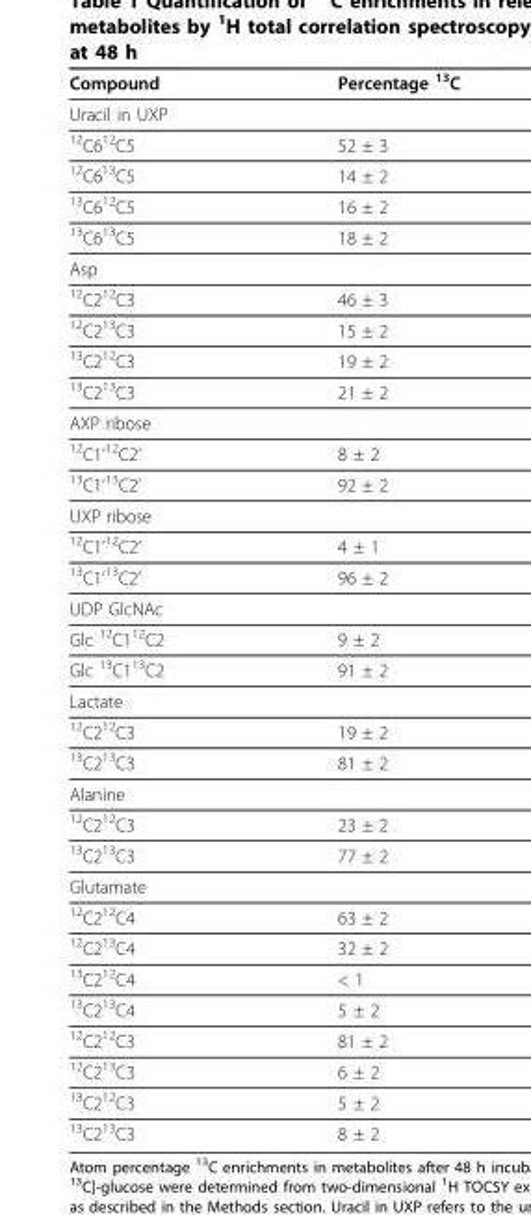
<table><thead><tr><td>Compound</td><td>Percentage <sup>13</sup>C</td></tr></thead><tbody><tr><td colspan="2">Uracil in UXP</td></tr><tr><td><sup>12</sup>C6<sup>12</sup>C5</td><td>52 ± 3</td></tr><tr><td><sup>12</sup>C6<sup>13</sup>C5</td><td>14 ± 2</td></tr><tr><td><sup>13</sup>C6<sup>12</sup>C5</td><td>16 ± 2</td></tr><tr><td><sup>13</sup>C6<sup>13</sup>C5</td><td>18 ± 2</td></tr><tr><td colspan="2">Asp</td></tr><tr><td><sup>12</sup>C2<sup>12</sup>C3</td><td>46 ± 3</td></tr><tr><td><sup>12</sup>C2<sup>13</sup>C3</td><td>15 ± 2</td></tr><tr><td><sup>13</sup>C2<sup>12</sup>C3</td><td>19 ± 2</td></tr><tr><td><sup>13</sup>C2<sup>13</sup>C3</td><td>21 ± 2</td></tr><tr><td colspan="2">AXP ribose</td></tr><tr><td><sup>12</sup>C1’<sup>12</sup>C2’</td><td>8 ± 2</td></tr><tr><td><sup>13</sup>C1’<sup>13</sup>C2’</td><td>92 ± 2</td></tr><tr><td colspan="2">UXP ribose</td></tr><tr><td><sup>12</sup>C1’<sup>12</sup>C2’</td><td>4 ± 1</td></tr><tr><td><sup>13</sup>C1’<sup>13</sup>C2’</td><td>96 ± 2</td></tr><tr><td colspan="2">UDP GlcNAc</td></tr><tr><td>Glc <sup>12</sup>C1<sup>12</sup>C2</td><td>9 ± 2</td></tr><tr><td>Glc <sup>13</sup>C1<sup>13</sup>C2</td><td>91 ± 2</td></tr><tr><td colspan="2">Lactate</td></tr><tr><td><sup>12</sup>C2<sup>12</sup>C3</td><td>19 ± 2</td></tr><tr><td><sup>13</sup>C2<sup>13</sup>C3</td><td>81 ± 2</td></tr><tr><td colspan="2">Alanine</td></tr><tr><td><sup>12</sup>C2<sup>12</sup>C3</td><td>23 ± 2</td></tr><tr><td><sup>13</sup>C2<sup>13</sup>C3</td><td>77 ± 2</td></tr><tr><td colspan="2">Glutamate</td></tr><tr><td><sup>12</sup>C2<sup>12</sup>C4</td><td>63 ± 2</td></tr><tr><td><sup>12</sup>C2<sup>13</sup>C4</td><td>32 ± 2</td></tr><tr><td><sup>13</sup>C2<sup>12</sup>C4</td><td>&lt; 1</td></tr><tr><td><sup>13</sup>C2<sup>13</sup>C4</td><td>5 ± 2</td></tr><tr><td><sup>12</sup>C2<sup>12</sup>C3</td><td>81 ± 2</td></tr><tr><td><sup>12</sup>C2<sup>13</sup>C3</td><td>6 ± 2</td></tr><tr><td><sup>13</sup>C2<sup>12</sup>C3</td><td>5 ± 2</td></tr><tr><td><sup>13</sup>C2<sup>13</sup>C3</td><td>8 ± 2</td></tr></tbody></table>